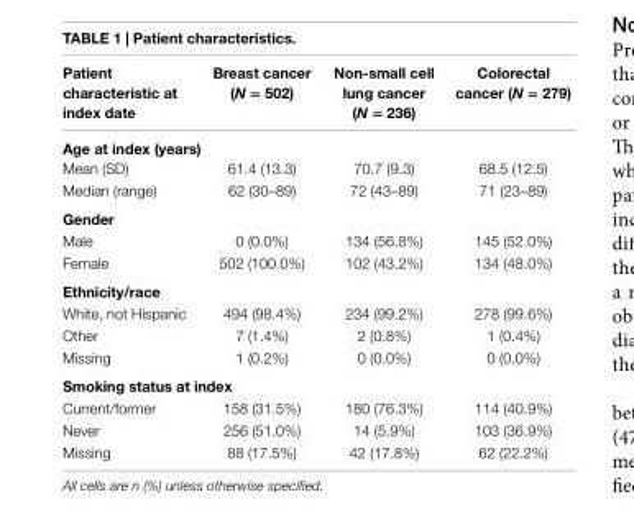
<table><thead><tr><td>Patient characteristic at index date</td><td>Breast cancer (N = 502)</td><td>non-small cell lung cancer (N = 236)</td><td>colorectal cancer (N = 279)</td></tr></thead><tbody><tr><td colspan="4">age at index (years)</td></tr><tr><td>Mean (SD)</td><td>61.4 (13.3)</td><td>70.7 (9.3)</td><td>68.5 (12.5)</td></tr><tr><td>Median (range)</td><td>62 (30–89)</td><td>72 (43–89)</td><td>71 (23–89)</td></tr><tr><td colspan="4">gender</td></tr><tr><td>Male</td><td>0 (0.0%)</td><td>134 (56.8%)</td><td>145 (52.0%)</td></tr><tr><td>Female</td><td>502 (100.0%)</td><td>102 (43.2%)</td><td>134 (48.0%)</td></tr><tr><td colspan="4">ethnicity/race</td></tr><tr><td>White, not Hispanic</td><td>494 (98.4%)</td><td>234 (99.2%)</td><td>278 (99.6%)</td></tr><tr><td>Other</td><td>7 (1.4%)</td><td>2 (0.8%)</td><td>1 (0.4%)</td></tr><tr><td>Missing</td><td>1 (0.2%)</td><td>0 (0.0%)</td><td>0 (0.0%)</td></tr><tr><td colspan="4">smoking status at index</td></tr><tr><td>Current/former</td><td>158 (31.5%)</td><td>180 (76.3%)</td><td>114 (40.9%)</td></tr><tr><td>Never</td><td>256 (51.0%)</td><td>14 (5.9%)</td><td>103 (36.9%)</td></tr><tr><td>Missing</td><td>88 (17.5%)</td><td>42 (17.8%)</td><td>62 (22.2%)</td></tr></tbody></table>